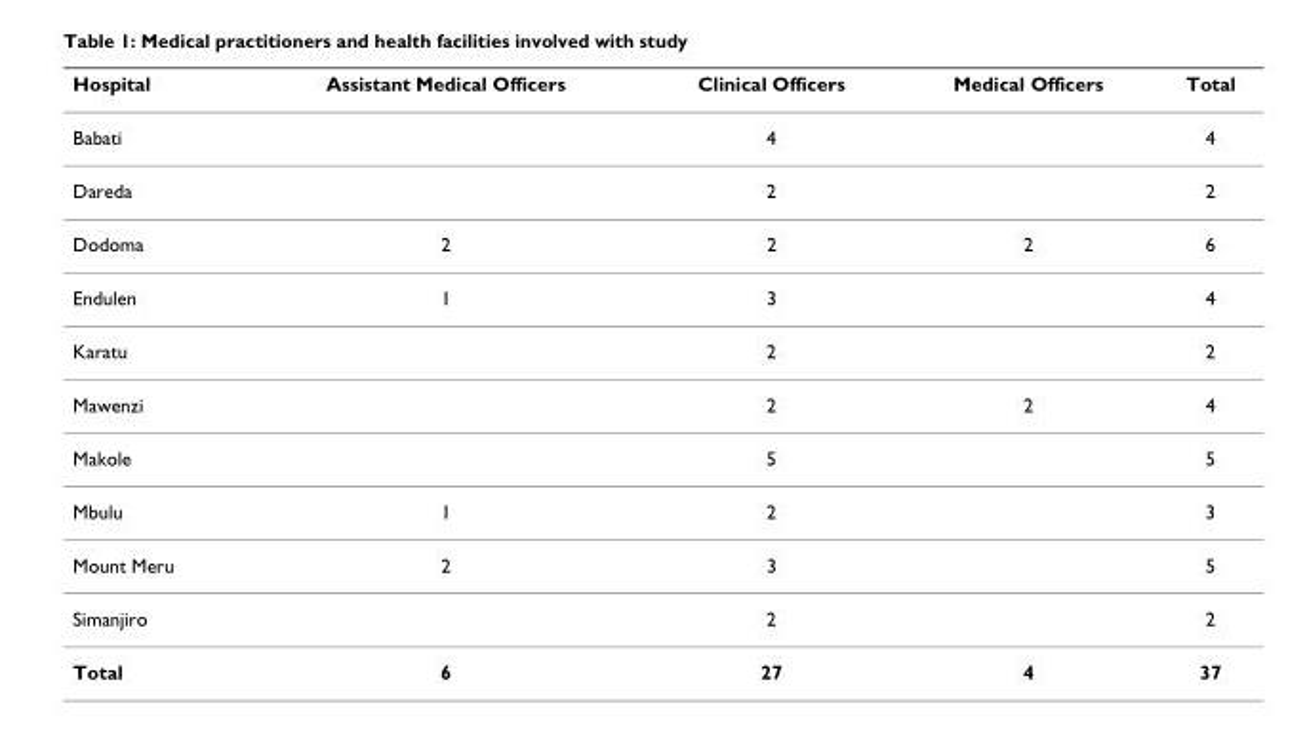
<table><thead><tr><td>Hospital</td><td>Assistant Medical Officers</td><td>Clinical Officers</td><td>Medical Officers</td><td>Total</td></tr></thead><tbody><tr><td>Babati</td><td></td><td>4</td><td></td><td>4</td></tr><tr><td>Dareda</td><td></td><td>2</td><td></td><td>2</td></tr><tr><td>Dodoma</td><td>2</td><td>2</td><td>2</td><td>6</td></tr><tr><td>Endulen</td><td>1</td><td>3</td><td></td><td>4</td></tr><tr><td>Karatu</td><td></td><td>2</td><td></td><td>2</td></tr><tr><td>Mawenzi</td><td></td><td>2</td><td>2</td><td>4</td></tr><tr><td>Makole</td><td></td><td>5</td><td></td><td>5</td></tr><tr><td>Mbulu</td><td>1</td><td>2</td><td></td><td>3</td></tr><tr><td>Mount Meru</td><td>2</td><td>3</td><td></td><td>5</td></tr><tr><td>Simanjiro</td><td></td><td>2</td><td></td><td>2</td></tr><tr><td>Total</td><td>6</td><td>27</td><td>4</td><td>37</td></tr></tbody></table>